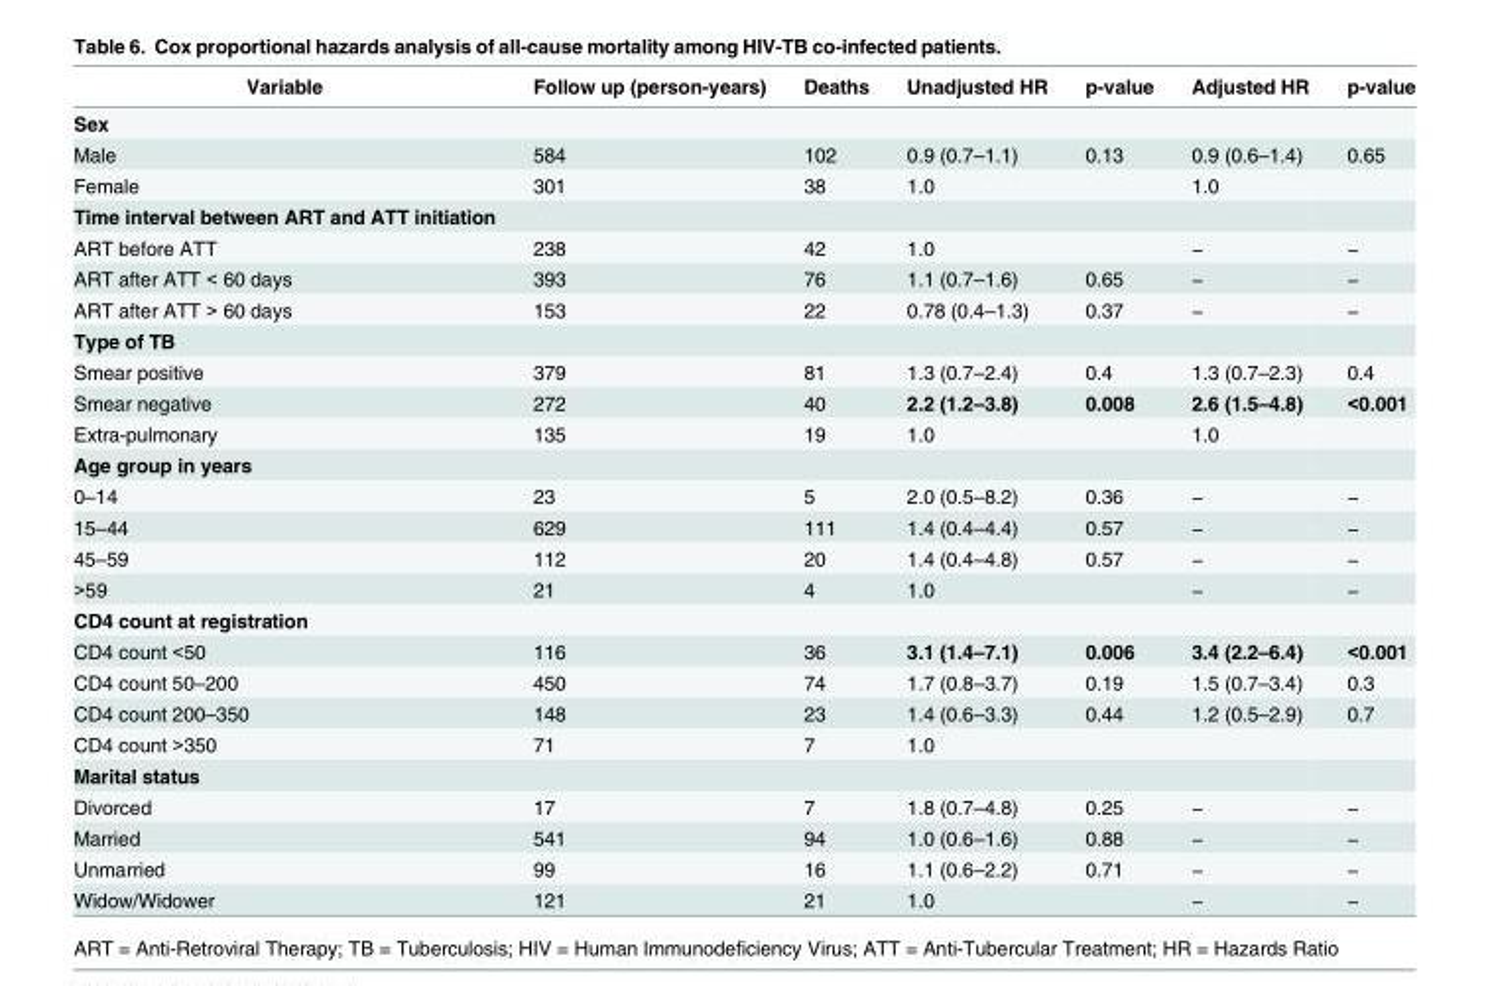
<table><thead><tr><td>Variable</td><td>Follow up (person-years)</td><td>Deaths</td><td>Unadjusted HR</td><td>p-value</td><td>Adjusted HR</td><td>p-value</td></tr></thead><tbody><tr><td colspan="7">Sex</td></tr><tr><td>Male</td><td>584</td><td>102</td><td>0.9 (0.7–1.1)</td><td>0.13</td><td>0.9 (0.6–1.4)</td><td>0.65</td></tr><tr><td>Female</td><td>301</td><td>38</td><td>1.0</td><td></td><td>1.0</td><td></td></tr><tr><td colspan="7">Time interval between ART and ATT initiation</td></tr><tr><td>ART before ATT</td><td>238</td><td>42</td><td>1.0</td><td></td><td>−</td><td>−</td></tr><tr><td>ART after ATT &lt; 60 days</td><td>393</td><td>76</td><td>1.1 (0.7–1.6)</td><td>0.65</td><td>−</td><td>−</td></tr><tr><td>ART after ATT &gt; 60 days</td><td>153</td><td>22</td><td>0.78 (0.4–1.3)</td><td>0.37</td><td>−</td><td>−</td></tr><tr><td colspan="7">Type of TB</td></tr><tr><td>Smear positive</td><td>379</td><td>81</td><td>1.3 (0.7–2.4)</td><td>0.4</td><td>1.3 (0.7–2.3)</td><td>0.4</td></tr><tr><td>Smear negative</td><td>272</td><td>40</td><td>2.2 (1.2–3.8)</td><td>0.008</td><td>2.6 (1.5–4.8)</td><td>&lt;0.001</td></tr><tr><td>Extra-pulmonary</td><td>135</td><td>19</td><td>1.0</td><td></td><td>1.0</td><td></td></tr><tr><td colspan="7">Age group in years</td></tr><tr><td>0–14</td><td>23</td><td>5</td><td>2.0 (0.5–8.2)</td><td>0.36</td><td>−</td><td>−</td></tr><tr><td>15–44</td><td>629</td><td>111</td><td>1.4 (0.4–4.4)</td><td>0.57</td><td>−</td><td>−</td></tr><tr><td>45–59</td><td>112</td><td>20</td><td>1.4 (0.4–4.8)</td><td>0.57</td><td>−</td><td>−</td></tr><tr><td>&gt;59</td><td>21</td><td>4</td><td>1.0</td><td></td><td>−</td><td>−</td></tr><tr><td colspan="7">CD4 count at registration</td></tr><tr><td>CD4 count &lt;50</td><td>116</td><td>36</td><td>3.1 (1.4–7.1)</td><td>0.006</td><td>3.4 (2.2–6.4)</td><td>&lt;0.001</td></tr><tr><td>CD4 count 50–200</td><td>450</td><td>74</td><td>1.7 (0.8–3.7)</td><td>0.19</td><td>1.5 (0.7–3.4)</td><td>0.3</td></tr><tr><td>CD4 count 200–350</td><td>148</td><td>23</td><td>1.4 (0.6–3.3)</td><td>0.44</td><td>1.2 (0.5–2.9)</td><td>0.7</td></tr><tr><td>CD4 count &gt;350</td><td>71</td><td>7</td><td>1.0</td><td></td><td></td><td></td></tr><tr><td colspan="7">Marital status</td></tr><tr><td>Divorced</td><td>17</td><td>7</td><td>1.8 (0.7–4.8)</td><td>0.25</td><td>−</td><td>−</td></tr><tr><td>Married</td><td>541</td><td>94</td><td>1.0 (0.6–1.6)</td><td>0.88</td><td>−</td><td>−</td></tr><tr><td>Unmarried</td><td>99</td><td>16</td><td>1.1 (0.6–2.2)</td><td>0.71</td><td>−</td><td>−</td></tr><tr><td>Widow/Widower</td><td>121</td><td>21</td><td>1.0</td><td></td><td>−</td><td>−</td></tr></tbody></table>